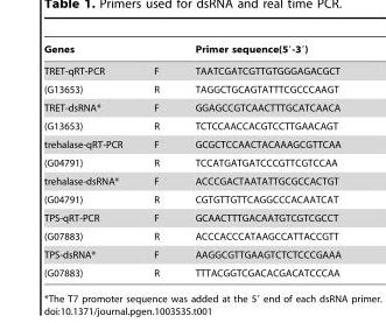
<table><thead><tr><td>Genes</td><td></td><td>Primer sequence(5′-3′)</td></tr></thead><tbody><tr><td>TRET-qRT-PCR</td><td>F</td><td>TAATCGATCGTTGTGGGAGACGCT</td></tr><tr><td>(G13653)</td><td>R</td><td>TAGGCTGCAGTATTTCGCCCAAGT</td></tr><tr><td>TRET-dsRNA*</td><td>F</td><td>GGAGCCGTCAACTTTGCATCAACA</td></tr><tr><td>(G13653)</td><td>R</td><td>TCTCCAACCACGTCCTTGAACAGT</td></tr><tr><td>trehalase-qRT-PCR</td><td>F</td><td>GCGCTCCAACTACAAAGCGTTCAA</td></tr><tr><td>(G04791)</td><td>R</td><td>TCCATGATGATCCCGTTCGTCCAA</td></tr><tr><td>trehalase-dsRNA*</td><td>F</td><td>ACCCGACTAATATTGCGCCACTGT</td></tr><tr><td>(G04791)</td><td>R</td><td>CGTGTTGTTCAGGCCCACAATCAT</td></tr><tr><td>TPS-qRT-PCR</td><td>F</td><td>GCAACTTTGACAATGTCGTCGCCT</td></tr><tr><td>(G07883)</td><td>R</td><td>ACCCACCCATAAGCCATTACCGTT</td></tr><tr><td>TPS-dsRNA*</td><td>F</td><td>AAGGCGTTGAAGTCTCTCCCGAAA</td></tr><tr><td>(G07883)</td><td>R</td><td>TTTACGGTCGACACGACATCCCAA</td></tr></tbody></table>